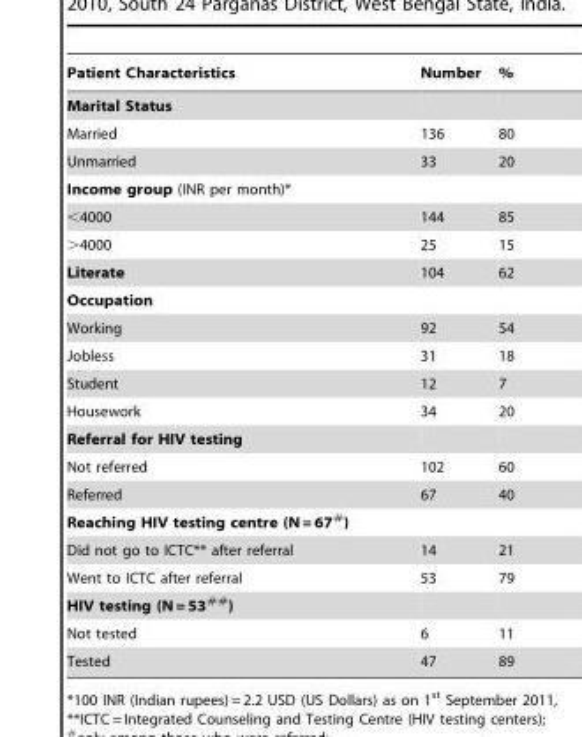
<table><thead><tr><td>Patient Characteristics</td><td>Number</td><td>%</td></tr></thead><tbody><tr><td colspan="3">Marital Status</td></tr><tr><td>Married</td><td>136</td><td>80</td></tr><tr><td>Unmarried</td><td>33</td><td>20</td></tr><tr><td colspan="3">Income group (INR per month)*</td></tr><tr><td>&lt;4000</td><td>144</td><td>85</td></tr><tr><td>&gt;4000</td><td>25</td><td>15</td></tr><tr><td>Literate</td><td>104</td><td>62</td></tr><tr><td colspan="3">Occupation</td></tr><tr><td>Working</td><td>92</td><td>54</td></tr><tr><td>Jobless</td><td>31</td><td>18</td></tr><tr><td>Student</td><td>12</td><td>7</td></tr><tr><td>Housework</td><td>34</td><td>20</td></tr><tr><td colspan="3">Referral for HIV testing</td></tr><tr><td>Not referred</td><td>102</td><td>60</td></tr><tr><td>Referred</td><td>67</td><td>40</td></tr><tr><td colspan="3">Reaching HIV testing centre (N = 67#)</td></tr><tr><td>Did not go to ICTC** after referral</td><td>14</td><td>21</td></tr><tr><td>Went to ICTC after referral</td><td>53</td><td>79</td></tr><tr><td colspan="3">HIV testing (N = 53##)</td></tr><tr><td>Not tested</td><td>6</td><td>11</td></tr><tr><td>Tested</td><td>47</td><td>89</td></tr></tbody></table>